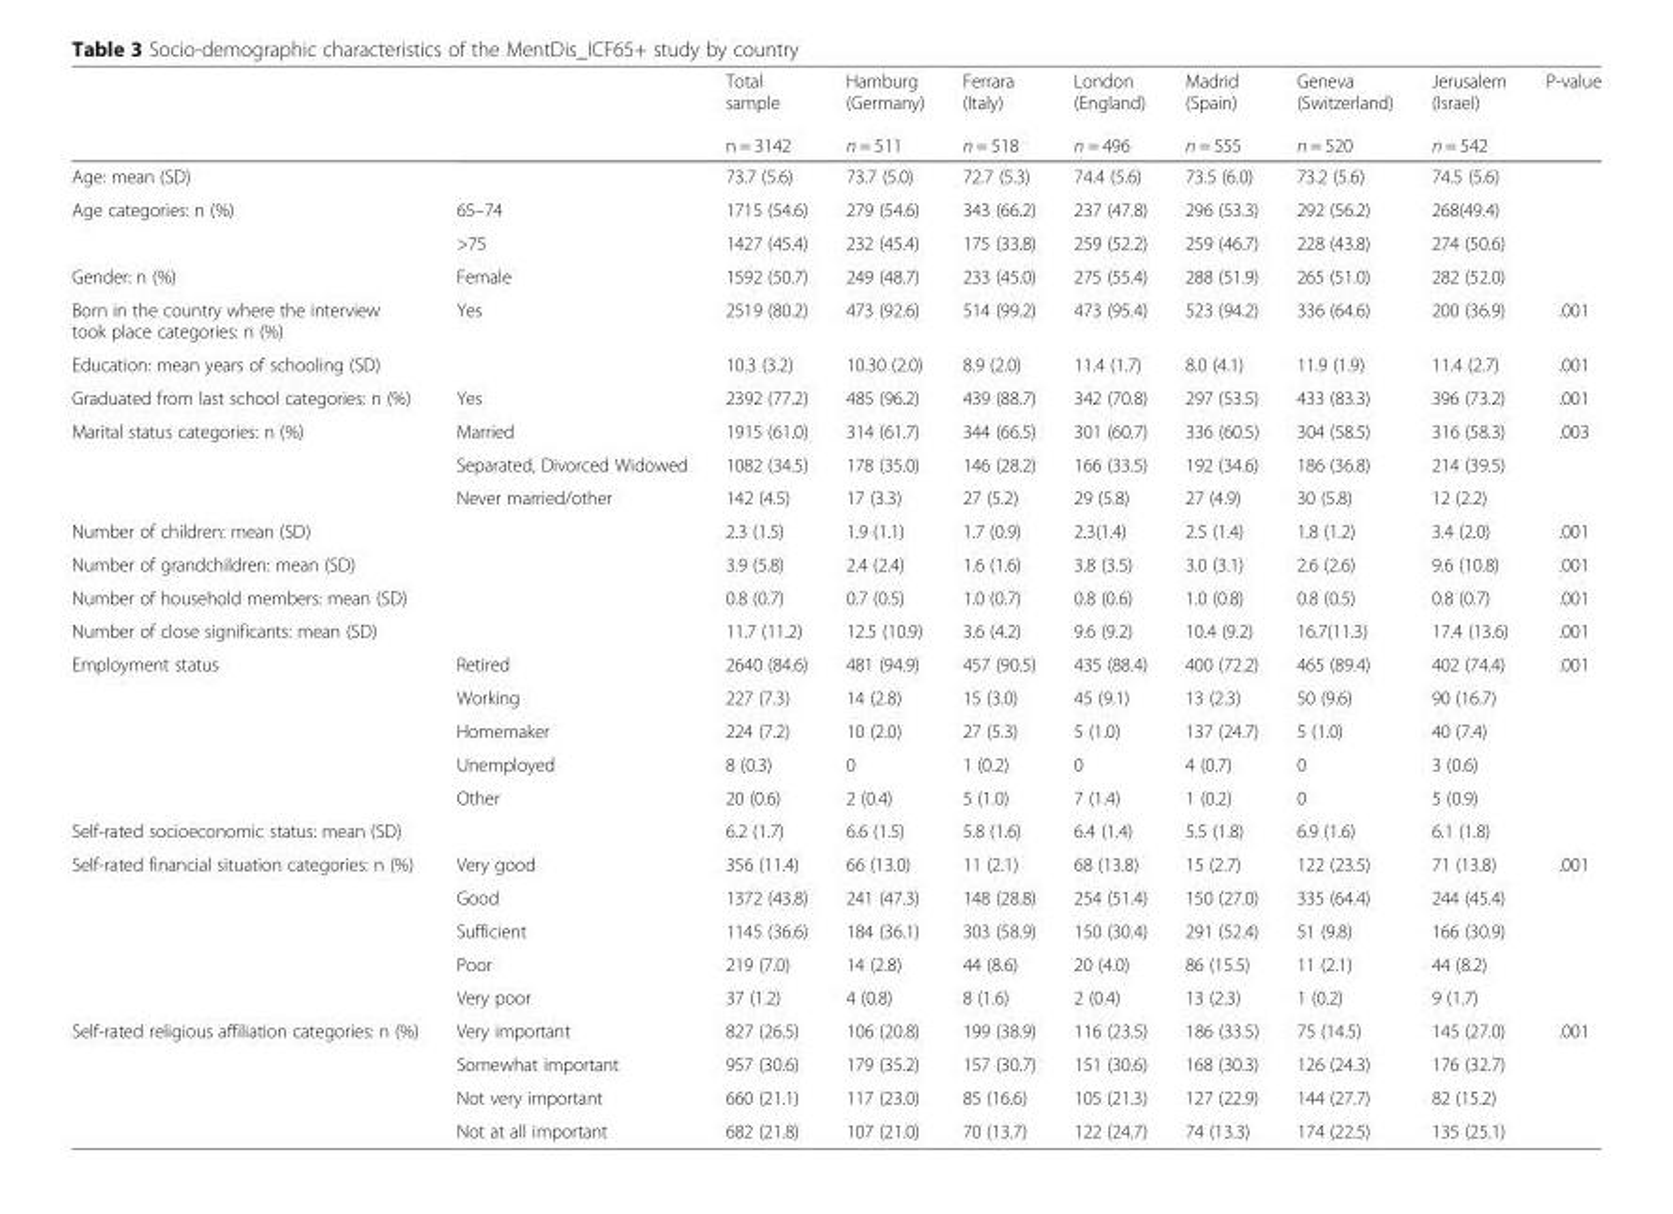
<table><thead><tr><td></td><td></td><td>Total sample n = 3142</td><td>Hamburg (Germany) n = 511</td><td>Ferrara (Italy) n = 518</td><td>London (England) n = 496</td><td>Madrid (Spain) n = 555</td><td>Geneva (Switzerland) n = 520</td><td>Jerusalem (Israel) n = 542</td><td>P-value</td></tr></thead><tbody><tr><td>Age: mean (SD)</td><td></td><td>73.7 (5.6)</td><td>73.7 (5.0)</td><td>72.7 (5.3)</td><td>74.4 (5.6)</td><td>73.5 (6.0)</td><td>73.2 (5.6)</td><td>74.5 (5.6)</td><td></td></tr><tr><td rowspan="2">Age categories: n (%)</td><td>65–74</td><td>1715 (54.6)</td><td>279 (54.6)</td><td>343 (66.2)</td><td>237 (47.8)</td><td>296 (53.3)</td><td>292 (56.2)</td><td>268(49.4)</td><td></td></tr><tr><td>&gt;75</td><td>1427 (45.4)</td><td>232 (45.4)</td><td>175 (33.8)</td><td>259 (52.2)</td><td>259 (46.7)</td><td>228 (43.8)</td><td>274 (50.6)</td><td></td></tr><tr><td>Gender: n (%)</td><td>Female</td><td>1592 (50.7)</td><td>249 (48.7)</td><td>233 (45.0)</td><td>275 (55.4)</td><td>288 (51.9)</td><td>265 (51.0)</td><td>282 (52.0)</td><td></td></tr><tr><td>Born in the country where the interview took place categories: n (%)</td><td>Yes</td><td>2519 (80.2)</td><td>473 (92.6)</td><td>514 (99.2)</td><td>473 (95.4)</td><td>523 (94.2)</td><td>336 (64.6)</td><td>200 (36.9)</td><td>.001</td></tr><tr><td>Education: mean years of schooling (SD)</td><td></td><td>10.3 (3.2)</td><td>10.30 (2.0)</td><td>8.9 (2.0)</td><td>11.4 (1.7)</td><td>8.0 (4.1)</td><td>11.9 (1.9)</td><td>11.4 (2.7)</td><td>.001</td></tr><tr><td>Graduated from last school categories: n (%)</td><td>Yes</td><td>2392 (77.2)</td><td>485 (96.2)</td><td>439 (88.7)</td><td>342 (70.8)</td><td>297 (53.5)</td><td>433 (83.3)</td><td>396 (73.2)</td><td>.001</td></tr><tr><td rowspan="3">Marital status categories: n (%)</td><td>Married</td><td>1915 (61.0)</td><td>314 (61.7)</td><td>344 (66.5)</td><td>301 (60.7)</td><td>336 (60.5)</td><td>304 (58.5)</td><td>316 (58.3)</td><td>.003</td></tr><tr><td>Separated, Divorced Widowed</td><td>1082 (34.5)</td><td>178 (35.0)</td><td>146 (28.2)</td><td>166 (33.5)</td><td>192 (34.6)</td><td>186 (36.8)</td><td>214 (39.5)</td><td></td></tr><tr><td>Never married/other</td><td>142 (4.5)</td><td>17 (3.3)</td><td>27 (5.2)</td><td>29 (5.8)</td><td>27 (4.9)</td><td>30 (5.8)</td><td>12 (2.2)</td><td></td></tr><tr><td>Number of children: mean (SD)</td><td></td><td>2.3 (1.5)</td><td>1.9 (1.1)</td><td>1.7 (0.9)</td><td>2.3(1.4)</td><td>2.5 (1.4)</td><td>1.8 (1.2)</td><td>3.4 (2.0)</td><td>.001</td></tr><tr><td>Number of grandchildren: mean (SD)</td><td></td><td>3.9 (5.8)</td><td>2.4 (2.4)</td><td>1.6 (1.6)</td><td>3.8 (3.5)</td><td>3.0 (3.1)</td><td>2.6 (2.6)</td><td>9.6 (10.8)</td><td>.001</td></tr><tr><td>Number of household members: mean (SD)</td><td></td><td>0.8 (0.7)</td><td>0.7 (0.5)</td><td>1.0 (0.7)</td><td>0.8 (0.6)</td><td>1.0 (0.8)</td><td>0.8 (0.5)</td><td>0.8 (0.7)</td><td>.001</td></tr><tr><td>Number of close significants: mean (SD)</td><td></td><td>11.7 (11.2)</td><td>12.5 (10.9)</td><td>3.6 (4.2)</td><td>9.6 (9.2)</td><td>10.4 (9.2)</td><td>16.7(11.3)</td><td>17.4 (13.6)</td><td>.001</td></tr><tr><td rowspan="5">Employment status</td><td>Retired</td><td>2640 (84.6)</td><td>481 (94.9)</td><td>457 (90.5)</td><td>435 (88.4)</td><td>400 (72.2)</td><td>465 (89.4)</td><td>402 (74.4)</td><td>.001</td></tr><tr><td>Working</td><td>227 (7.3)</td><td>14 (2.8)</td><td>15 (3.0)</td><td>45 (9.1)</td><td>13 (2.3)</td><td>50 (9.6)</td><td>90 (16.7)</td><td></td></tr><tr><td>Homemaker</td><td>224 (7.2)</td><td>10 (2.0)</td><td>27 (5.3)</td><td>5 (1.0)</td><td>137 (24.7)</td><td>5 (1.0)</td><td>40 (7.4)</td><td></td></tr><tr><td>Unemployed</td><td>8 (0.3)</td><td>0</td><td>1 (0.2)</td><td>0</td><td>4 (0.7)</td><td>0</td><td>3 (0.6)</td><td></td></tr><tr><td>Other</td><td>20 (0.6)</td><td>2 (0.4)</td><td>5 (1.0)</td><td>7 (1.4)</td><td>1 (0.2)</td><td>0</td><td>5 (0.9)</td><td></td></tr><tr><td>Self-rated socioeconomic status: mean (SD)</td><td></td><td>6.2 (1.7)</td><td>6.6 (1.5)</td><td>5.8 (1.6)</td><td>6.4 (1.4)</td><td>5.5 (1.8)</td><td>6.9 (1.6)</td><td>6.1 (1.8)</td><td></td></tr><tr><td rowspan="5">Self-rated financial situation categories: n (%)</td><td>Very good</td><td>356 (11.4)</td><td>66 (13.0)</td><td>11 (2.1)</td><td>68 (13.8)</td><td>15 (2.7)</td><td>122 (23.5)</td><td>71 (13.8)</td><td>.001</td></tr><tr><td>Good</td><td>1372 (43.8)</td><td>241 (47.3)</td><td>148 (28.8)</td><td>254 (51.4)</td><td>150 (27.0)</td><td>335 (64.4)</td><td>244 (45.4)</td><td></td></tr><tr><td>Sufficient</td><td>1145 (36.6)</td><td>184 (36.1)</td><td>303 (58.9)</td><td>150 (30.4)</td><td>291 (52.4)</td><td>51 (9.8)</td><td>166 (30.9)</td><td></td></tr><tr><td>Poor</td><td>219 (7.0)</td><td>14 (2.8)</td><td>44 (8.6)</td><td>20 (4.0)</td><td>86 (15.5)</td><td>11 (2.1)</td><td>44 (8.2)</td><td></td></tr><tr><td>Very poor</td><td>37 (1.2)</td><td>4 (0.8)</td><td>8 (1.6)</td><td>2 (0.4)</td><td>13 (2.3)</td><td>1 (0.2)</td><td>9 (1.7)</td><td></td></tr><tr><td rowspan="4">Self-rated religious affiliation categories: n (%)</td><td>Very important</td><td>827 (26.5)</td><td>106 (20.8)</td><td>199 (38.9)</td><td>116 (23.5)</td><td>186 (33.5)</td><td>75 (14.5)</td><td>145 (27.0)</td><td>.001</td></tr><tr><td>Somewhat important</td><td>957 (30.6)</td><td>179 (35.2)</td><td>157 (30.7)</td><td>151 (30.6)</td><td>168 (30.3)</td><td>126 (24.3)</td><td>176 (32.7)</td><td></td></tr><tr><td>Not very important</td><td>660 (21.1)</td><td>117 (23.0)</td><td>85 (16.6)</td><td>105 (21.3)</td><td>127 (22.9)</td><td>144 (27.7)</td><td>82 (15.2)</td><td></td></tr><tr><td>Not at all important</td><td>682 (21.8)</td><td>107 (21.0)</td><td>70 (13.7)</td><td>122 (24.7)</td><td>74 (13.3)</td><td>174 (22.5)</td><td>135 (25.1)</td><td></td></tr></tbody></table>